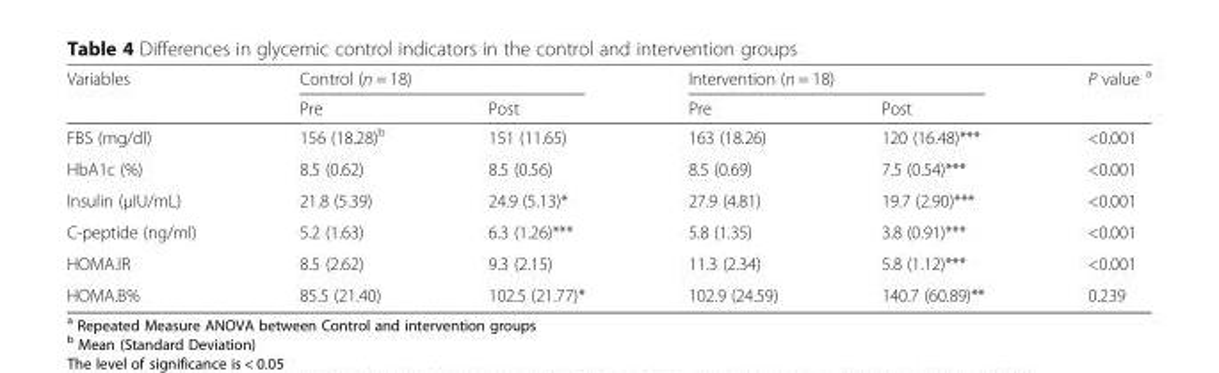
<table><thead><tr><td rowspan="2">Variables</td><td colspan="2">Control (n = 18)</td><td colspan="2">Intervention (n = 18)</td><td rowspan="2">P value <sup>a</sup></td></tr><tr><td>Pre</td><td>Post</td><td>Pre</td><td>Post</td></tr></thead><tbody><tr><td>FBS (mg/dl)</td><td>156 (18.28)<sup>b</sup></td><td>151 (11.65)</td><td>163 (18.26)</td><td>120 (16.48)***</td><td>&lt;0.001</td></tr><tr><td>HbA1c (%)</td><td>8.5 (0.62)</td><td>8.5 (0.56)</td><td>8.5 (0.69)</td><td>7.5 (0.54)***</td><td>&lt;0.001</td></tr><tr><td>Insulin (μIU/mL)</td><td>21.8 (5.39)</td><td>24.9 (5.13)*</td><td>27.9 (4.81)</td><td>19.7 (2.90)***</td><td>&lt;0.001</td></tr><tr><td>C-peptide (ng/ml)</td><td>5.2 (1.63)</td><td>6.3 (1.26)***</td><td>5.8 (1.35)</td><td>3.8 (0.91)***</td><td>&lt;0.001</td></tr><tr><td>HOMA.IR</td><td>8.5 (2.62)</td><td>9.3 (2.15)</td><td>11.3 (2.34)</td><td>5.8 (1.12)***</td><td>&lt;0.001</td></tr><tr><td>HOMA.B%</td><td>85.5 (21.40)</td><td>102.5 (21.77)*</td><td>102.9 (24.59)</td><td>140.7 (60.89)**</td><td>0.239</td></tr></tbody></table>